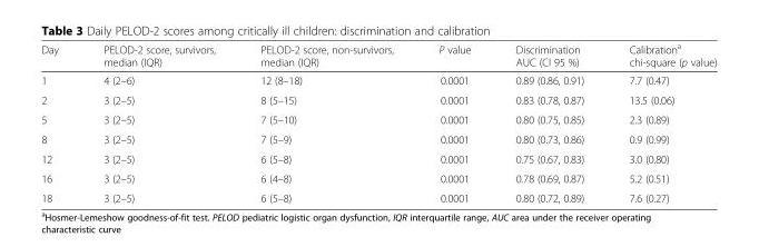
<table><thead><tr><td>Day</td><td>PELOD-2 score, survivors, median (IQR)</td><td>PELOD-2 score, non-survivors, median (IQR)</td><td>P value</td><td>Discrimination AUC (CI 95 %)</td><td>Calibration<sup>a</sup> chi-square (p value)</td></tr></thead><tbody><tr><td>1</td><td>4 (2–6)</td><td>12 (8–18)</td><td>0.0001</td><td>0.89 (0.86, 0.91)</td><td>7.7 (0.47)</td></tr><tr><td>2</td><td>3 (2–5)</td><td>8 (5–15)</td><td>0.0001</td><td>0.83 (0.78, 0.87)</td><td>13.5 (0.06)</td></tr><tr><td>5</td><td>3 (2–5)</td><td>7 (5–10)</td><td>0.0001</td><td>0.80 (0.75, 0.85)</td><td>2.3 (0.89)</td></tr><tr><td>8</td><td>3 (2–5)</td><td>7 (5–9)</td><td>0.0001</td><td>0.80 (0.73, 0.86)</td><td>0.9 (0.99)</td></tr><tr><td>12</td><td>3 (2–5)</td><td>6 (5–8)</td><td>0.0001</td><td>0.75 (0.67, 0.83)</td><td>3.0 (0.80)</td></tr><tr><td>16</td><td>3 (2–5)</td><td>6 (4–8)</td><td>0.0001</td><td>0.78 (0.69, 0.87)</td><td>5.2 (0.51)</td></tr><tr><td>18</td><td>3 (2–5)</td><td>6 (5–8)</td><td>0.0001</td><td>0.80 (0.72, 0.89)</td><td>7.6 (0.27)</td></tr></tbody></table>